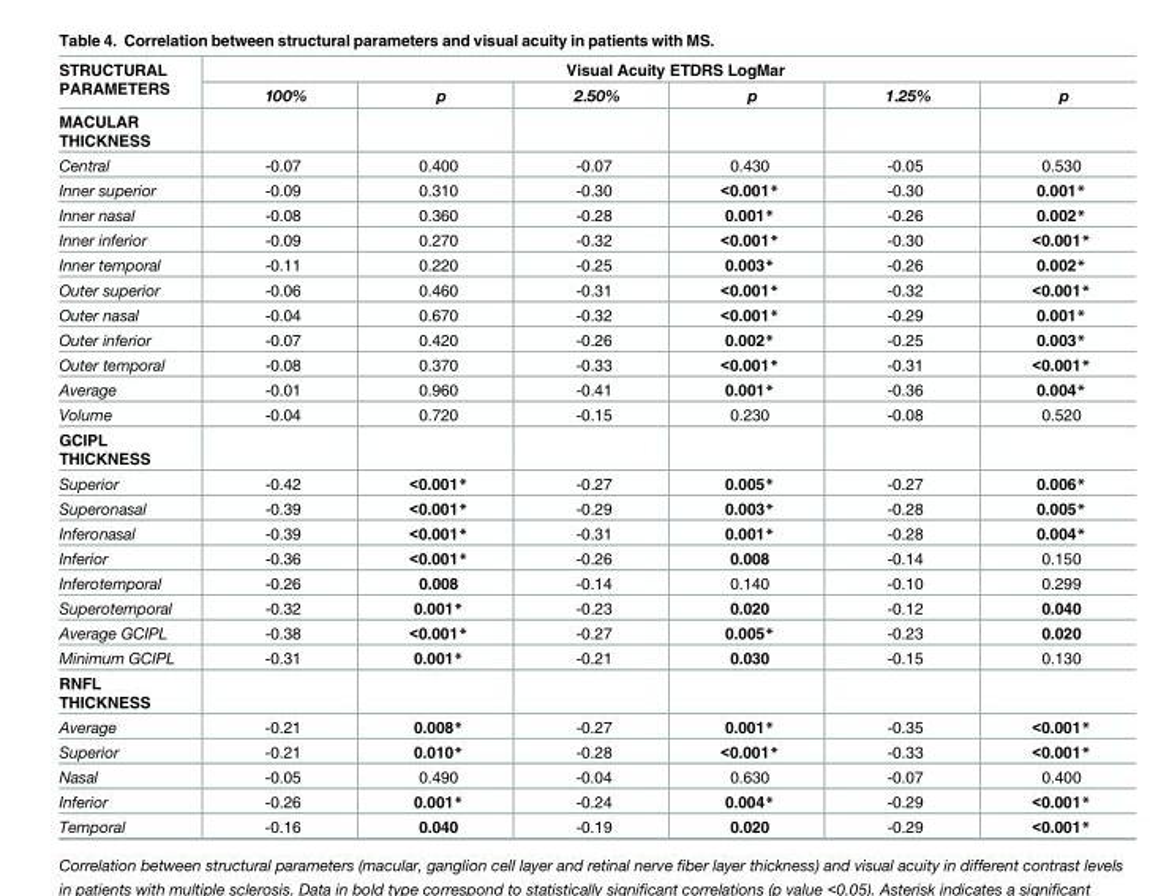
<table><thead><tr><td rowspan="2">STRUCTURAL PARAMETERS</td><td colspan="6">Visual Acuity ETDRS LogMar</td></tr><tr><td>100%</td><td>p</td><td>2.50%</td><td>p</td><td>1.25%</td><td>p</td></tr></thead><tbody><tr><td colspan="7">MACULAR THICKNESS</td></tr><tr><td>Central</td><td>-0.07</td><td>0.400</td><td>-0.07</td><td>0.430</td><td>-0.05</td><td>0.530</td></tr><tr><td>Inner superior</td><td>-0.09</td><td>0.310</td><td>-0.30</td><td>&lt;0.001*</td><td>-0.30</td><td>0.001*</td></tr><tr><td>Inner nasal</td><td>-0.08</td><td>0.360</td><td>-0.28</td><td>0.001*</td><td>-0.26</td><td>0.002*</td></tr><tr><td>Inner inferior</td><td>-0.09</td><td>0.270</td><td>-0.32</td><td>&lt;0.001*</td><td>-0.30</td><td>&lt;0.001*</td></tr><tr><td>Inner temporal</td><td>-0.11</td><td>0.220</td><td>-0.25</td><td>0.003*</td><td>-0.26</td><td>0.002*</td></tr><tr><td>Outer superior</td><td>-0.06</td><td>0.460</td><td>-0.31</td><td>&lt;0.001*</td><td>-0.32</td><td>&lt;0.001*</td></tr><tr><td>Outer nasal</td><td>-0.04</td><td>0.670</td><td>-0.32</td><td>&lt;0.001*</td><td>-0.29</td><td>0.001*</td></tr><tr><td>Outer inferior</td><td>-0.07</td><td>0.420</td><td>-0.26</td><td>0.002*</td><td>-0.25</td><td>0.003*</td></tr><tr><td>Outer temporal</td><td>-0.08</td><td>0.370</td><td>-0.33</td><td>&lt;0.001*</td><td>-0.31</td><td>&lt;0.001*</td></tr><tr><td>Average</td><td>-0.01</td><td>0.960</td><td>-0.41</td><td>0.001*</td><td>-0.36</td><td>0.004*</td></tr><tr><td>Volume</td><td>-0.04</td><td>0.720</td><td>-0.15</td><td>0.230</td><td>-0.08</td><td>0.520</td></tr><tr><td colspan="7">GCIPL THICKNESS</td></tr><tr><td>Superior</td><td>-0.42</td><td>&lt;0.001*</td><td>-0.27</td><td>0.005*</td><td>-0.27</td><td>0.006*</td></tr><tr><td>Superonasal</td><td>-0.39</td><td>&lt;0.001*</td><td>-0.29</td><td>0.003*</td><td>-0.28</td><td>0.005*</td></tr><tr><td>Inferonasal</td><td>-0.39</td><td>&lt;0.001*</td><td>-0.31</td><td>0.001*</td><td>-0.28</td><td>0.004*</td></tr><tr><td>Inferior</td><td>-0.36</td><td>&lt;0.001*</td><td>-0.26</td><td>0.008</td><td>-0.14</td><td>0.150</td></tr><tr><td>Inferotemporal</td><td>-0.26</td><td>0.008</td><td>-0.14</td><td>0.140</td><td>-0.10</td><td>0.299</td></tr><tr><td>Superotemporal</td><td>-0.32</td><td>0.001*</td><td>-0.23</td><td>0.020</td><td>-0.12</td><td>0.040</td></tr><tr><td>Average GCIPL</td><td>-0.38</td><td>&lt;0.001*</td><td>-0.27</td><td>0.005*</td><td>-0.23</td><td>0.020</td></tr><tr><td>Minimum GCIPL</td><td>-0.31</td><td>0.001*</td><td>-0.21</td><td>0.030</td><td>-0.15</td><td>0.130</td></tr><tr><td colspan="7">RNFL THICKNESS</td></tr><tr><td>Average</td><td>-0.21</td><td>0.008*</td><td>-0.27</td><td>0.001*</td><td>-0.35</td><td>&lt;0.001*</td></tr><tr><td>Superior</td><td>-0.21</td><td>0.010*</td><td>-0.28</td><td>&lt;0.001*</td><td>-0.33</td><td>&lt;0.001*</td></tr><tr><td>Nasal</td><td>-0.05</td><td>0.490</td><td>-0.04</td><td>0.630</td><td>-0.07</td><td>0.400</td></tr><tr><td>Inferior</td><td>-0.26</td><td>0.001*</td><td>-0.24</td><td>0.004*</td><td>-0.29</td><td>&lt;0.001*</td></tr><tr><td>Temporal</td><td>-0.16</td><td>0.040</td><td>-0.19</td><td>0.020</td><td>-0.29</td><td>&lt;0.001*</td></tr></tbody></table>